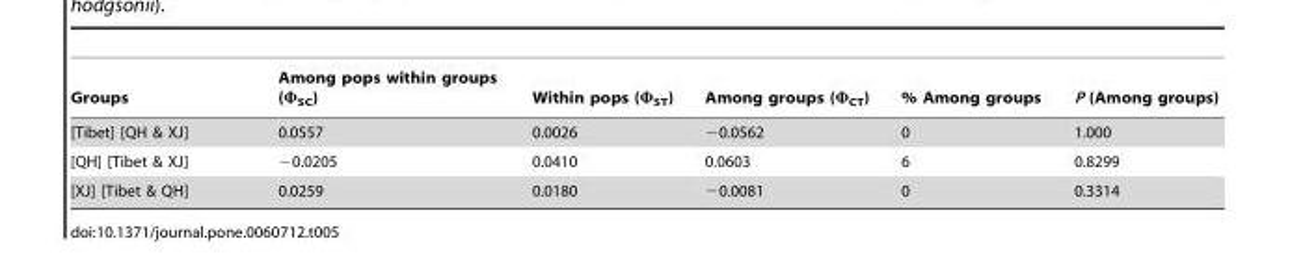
<table><thead><tr><td>Groups</td><td>Among pops within groups (Φ<sub>SC</sub>)</td><td>Within pops (Φ<sub>ST</sub>)</td><td>Among groups (Φ<sub>CT</sub>)</td><td>% Among groups</td><td>P (Among groups)</td></tr></thead><tbody><tr><td>[Tibet] [QH &amp; XJ]</td><td>0.0557</td><td>0.0026</td><td>−0.0562</td><td>0</td><td>1.000</td></tr><tr><td>[QH] [Tibet &amp; XJ]</td><td>−0.0205</td><td>0.0410</td><td>0.0603</td><td>6</td><td>0.8299</td></tr><tr><td>[XJ] [Tibet &amp; QH]</td><td>0.0259</td><td>0.0180</td><td>−0.0081</td><td>0</td><td>0.3314</td></tr></tbody></table>